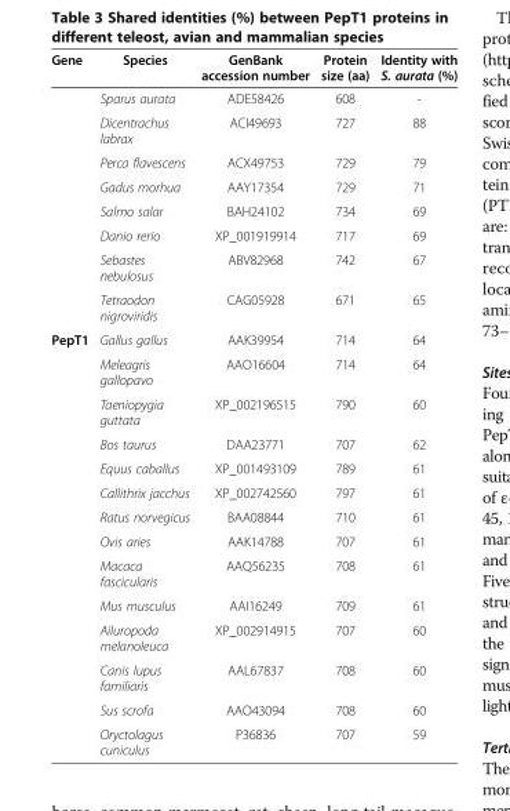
<table><thead><tr><td>Gene</td><td>Species</td><td>GenBank accession number</td><td>Protein size (aa)</td><td>Identity with S. aurata (%)</td></tr></thead><tbody><tr><td></td><td>Sparus aurata</td><td>ADE58426</td><td>608</td><td>-</td></tr><tr><td></td><td>Dicentrachus labrax</td><td>ACI49693</td><td>727</td><td>88</td></tr><tr><td></td><td>Perca flavescens</td><td>ACX49753</td><td>729</td><td>79</td></tr><tr><td></td><td>Gadus morhua</td><td>AAY17354</td><td>729</td><td>71</td></tr><tr><td></td><td>Salmo salar</td><td>BAH24102</td><td>734</td><td>69</td></tr><tr><td></td><td>Danio rerio</td><td>XP_001919914</td><td>717</td><td>69</td></tr><tr><td></td><td>Sebastes nebulosus</td><td>ABV82968</td><td>742</td><td>67</td></tr><tr><td></td><td>Tetraodon nigroviridis</td><td>CAG05928</td><td>671</td><td>65</td></tr><tr><td rowspan="14">PepT1</td><td>Gallus gallus</td><td>AAK39954</td><td>714</td><td>64</td></tr><tr><td>Meleagris gallopavo</td><td>AAO16604</td><td>714</td><td>64</td></tr><tr><td>Taeniopygia guttata</td><td>XP_002196515</td><td>790</td><td>60</td></tr><tr><td>Bos taurus</td><td>DAA23771</td><td>707</td><td>62</td></tr><tr><td>Equus caballus</td><td>XP_001493109</td><td>789</td><td>61</td></tr><tr><td>Callithrix jacchus</td><td>XP_002742560</td><td>797</td><td>61</td></tr><tr><td>Ratus norvegicus</td><td>BAA08844</td><td>710</td><td>61</td></tr><tr><td>Ovis aries</td><td>AAK14788</td><td>707</td><td>61</td></tr><tr><td>Macaca fascicularis</td><td>AAQ56235</td><td>708</td><td>61</td></tr><tr><td>Mus musculus</td><td>AAI16249</td><td>709</td><td>61</td></tr><tr><td>Ailuropoda melanoleuca</td><td>XP_002914915</td><td>707</td><td>60</td></tr><tr><td>Canis lupus familiaris</td><td>AAL67837</td><td>708</td><td>60</td></tr><tr><td>Sus scrofa</td><td>AAO43094</td><td>708</td><td>60</td></tr><tr><td>Oryctolagus cuniculus</td><td>P36836</td><td>707</td><td>59</td></tr></tbody></table>